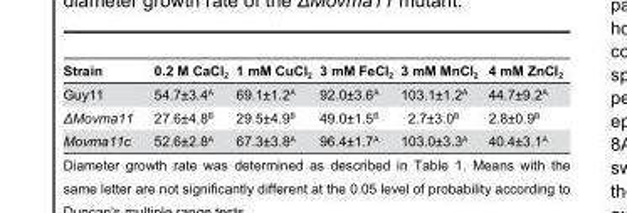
<table><thead><tr><td>Strain</td><td>0.2 M CaCl<sub>2</sub></td><td>1 mM CuCl<sub>2</sub></td><td>3 mM FeCl<sub>2</sub></td><td>3 mM MnCl<sub>2</sub></td><td>4 mM ZnCl<sub>2</sub></td></tr></thead><tbody><tr><td>Guy11</td><td>54.7±3.4<sup>A</sup></td><td>69.1±1.2<sup>A</sup></td><td>92.0±3.6<sup>A</sup></td><td>103.1±1.2<sup>A</sup></td><td>44.7±9.2<sup>A</sup></td></tr><tr><td>ΔMovma11</td><td>27.6±4.8<sup>B</sup></td><td>29.5±4.9<sup>B</sup></td><td>49.0±1.5<sup>B</sup></td><td>2.7±3.0<sup>B</sup></td><td>2.8±0.9<sup>B</sup></td></tr><tr><td>Movma11c</td><td>52.6±2.8<sup>A</sup></td><td>67.3±3.8<sup>A</sup></td><td>96.4±1.7<sup>A</sup></td><td>103.0±3.3<sup>A</sup></td><td>40.4±3.1<sup>A</sup></td></tr></tbody></table>